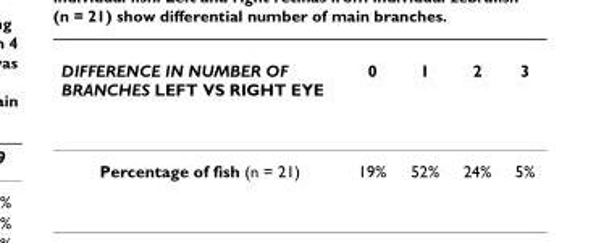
<table><thead><tr><td>DIFFERENCE IN NUMBER OF BRANCHES LEFT VS RIGHT EYE</td><td>0</td><td>1</td><td>2</td><td>3</td></tr></thead><tbody><tr><td>Percentage of fish (n = 21)</td><td>19%</td><td>52%</td><td>24%</td><td>5%</td></tr></tbody></table>